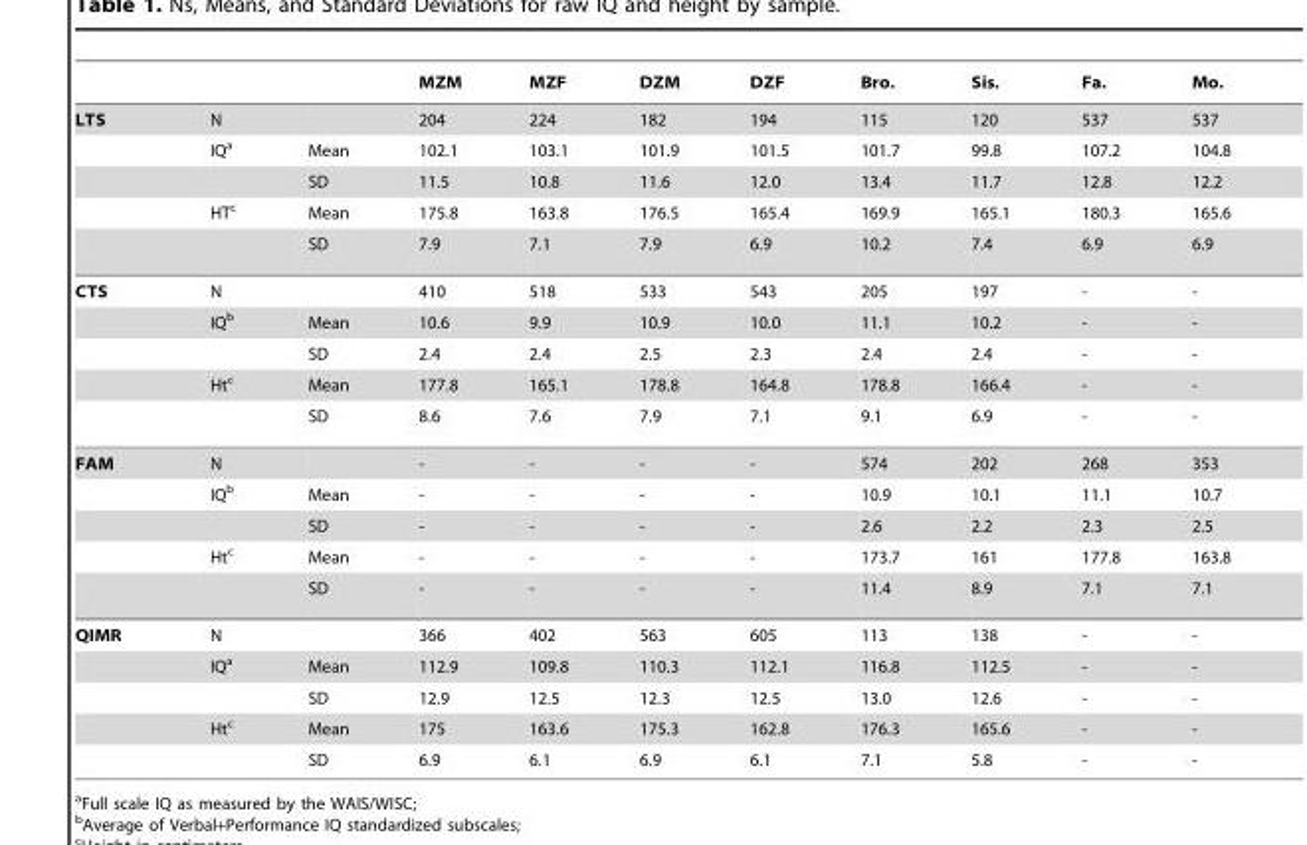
<table><thead><tr><td></td><td></td><td></td><td>MZM</td><td>MZF</td><td>DZM</td><td>DZF</td><td>Bro.</td><td>Sis.</td><td>Fa.</td><td>Mo.</td></tr></thead><tbody><tr><td rowspan="5">LTS</td><td>N</td><td></td><td>204</td><td>224</td><td>182</td><td>194</td><td>115</td><td>120</td><td>537</td><td>537</td></tr><tr><td>IQ<sup>a</sup></td><td>Mean</td><td>102.1</td><td>103.1</td><td>101.9</td><td>101.5</td><td>101.7</td><td>99.8</td><td>107.2</td><td>104.8</td></tr><tr><td></td><td>SD</td><td>11.5</td><td>10.8</td><td>11.6</td><td>12.0</td><td>13.4</td><td>11.7</td><td>12.8</td><td>12.2</td></tr><tr><td>HT<sup>c</sup></td><td>Mean</td><td>175.8</td><td>163.8</td><td>176.5</td><td>165.4</td><td>169.9</td><td>165.1</td><td>180.3</td><td>165.6</td></tr><tr><td></td><td>SD</td><td>7.9</td><td>7.1</td><td>7.9</td><td>6.9</td><td>10.2</td><td>7.4</td><td>6.9</td><td>6.9</td></tr><tr><td rowspan="5">CTS</td><td>N</td><td></td><td>410</td><td>518</td><td>533</td><td>543</td><td>205</td><td>197</td><td>-</td><td>-</td></tr><tr><td>IQ<sup>b</sup></td><td>Mean</td><td>10.6</td><td>9.9</td><td>10.9</td><td>10.0</td><td>11.1</td><td>10.2</td><td>-</td><td>-</td></tr><tr><td></td><td>SD</td><td>2.4</td><td>2.4</td><td>2.5</td><td>2.3</td><td>2.4</td><td>2.4</td><td>-</td><td>-</td></tr><tr><td>Ht<sup>c</sup></td><td>Mean</td><td>177.8</td><td>165.1</td><td>178.8</td><td>164.8</td><td>178.8</td><td>166.4</td><td>-</td><td>-</td></tr><tr><td></td><td>SD</td><td>8.6</td><td>7.6</td><td>7.9</td><td>7.1</td><td>9.1</td><td>6.9</td><td>-</td><td>-</td></tr><tr><td rowspan="5">FAM</td><td>N</td><td></td><td>-</td><td>-</td><td>-</td><td>-</td><td>574</td><td>202</td><td>268</td><td>353</td></tr><tr><td>IQ<sup>b</sup></td><td>Mean</td><td>-</td><td>-</td><td>-</td><td>-</td><td>10.9</td><td>10.1</td><td>11.1</td><td>10.7</td></tr><tr><td></td><td>SD</td><td>-</td><td>-</td><td>-</td><td>-</td><td>2.6</td><td>2.2</td><td>2.3</td><td>2.5</td></tr><tr><td>Ht<sup>c</sup></td><td>Mean</td><td>-</td><td>-</td><td>-</td><td>-</td><td>173.7</td><td>161</td><td>177.8</td><td>163.8</td></tr><tr><td></td><td>SD</td><td>-</td><td>-</td><td>-</td><td>-</td><td>11.4</td><td>8.9</td><td>7.1</td><td>7.1</td></tr><tr><td rowspan="5">QIMR</td><td>N</td><td></td><td>366</td><td>402</td><td>563</td><td>605</td><td>113</td><td>138</td><td>-</td><td>-</td></tr><tr><td>IQ<sup>a</sup></td><td>Mean</td><td>112.9</td><td>109.8</td><td>110.3</td><td>112.1</td><td>116.8</td><td>112.5</td><td>-</td><td>-</td></tr><tr><td></td><td>SD</td><td>12.9</td><td>12.5</td><td>12.3</td><td>12.5</td><td>13.0</td><td>12.6</td><td>-</td><td>-</td></tr><tr><td>Ht<sup>c</sup></td><td>Mean</td><td>175</td><td>163.6</td><td>175.3</td><td>162.8</td><td>176.3</td><td>165.6</td><td>-</td><td>-</td></tr><tr><td></td><td>SD</td><td>6.9</td><td>6.1</td><td>6.9</td><td>6.1</td><td>7.1</td><td>5.8</td><td>-</td><td>-</td></tr></tbody></table>